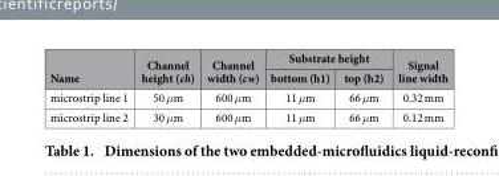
<table><thead><tr><td rowspan="2">Name</td><td rowspan="2">Channel height (ch)</td><td rowspan="2">Channel width (cw)</td><td colspan="2">Substrate height</td><td rowspan="2">Signal line width</td></tr><tr><td>bottom (h1)</td><td>top (h2)</td></tr></thead><tbody><tr><td>microstrip line 1</td><td>50 μm</td><td>600 μm</td><td>11 μm</td><td>66 μm</td><td>0.32 mm</td></tr><tr><td>microstrip line 2</td><td>30 μm</td><td>600 μm</td><td>11 μm</td><td>66 μm</td><td>0.12 mm</td></tr></tbody></table>